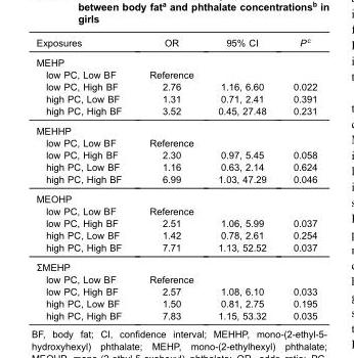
<table><thead><tr><td>Exposures</td><td>OR</td><td>95% CI</td><td>P<sup>c</sup></td></tr></thead><tbody><tr><td colspan="4">MEHP</td></tr><tr><td>low PC, Low BF</td><td>Reference</td><td></td><td></td></tr><tr><td>low PC, High BF</td><td>2.76</td><td>1.16, 6.60</td><td>0.022</td></tr><tr><td>high PC, Low BF</td><td>1.31</td><td>0.71, 2.41</td><td>0.391</td></tr><tr><td>high PC, High BF</td><td>3.52</td><td>0.45, 27.48</td><td>0.231</td></tr><tr><td colspan="4">MEHHP</td></tr><tr><td>low PC, Low BF</td><td>Reference</td><td></td><td></td></tr><tr><td>low PC, High BF</td><td>2.30</td><td>0.97, 5.45</td><td>0.058</td></tr><tr><td>high PC, Low BF</td><td>1.16</td><td>0.63, 2.14</td><td>0.624</td></tr><tr><td>high PC, High BF</td><td>6.99</td><td>1.03, 47.29</td><td>0.046</td></tr><tr><td colspan="4">MEOHP</td></tr><tr><td>low PC, Low BF</td><td>Reference</td><td></td><td></td></tr><tr><td>low PC, High BF</td><td>2.51</td><td>1.06, 5.99</td><td>0.037</td></tr><tr><td>high PC, Low BF</td><td>1.42</td><td>0.78, 2.61</td><td>0.254</td></tr><tr><td>high PC, High BF</td><td>7.71</td><td>1.13, 52.52</td><td>0.037</td></tr><tr><td colspan="4">ΣMEHP</td></tr><tr><td>low PC, Low BF</td><td>Reference</td><td></td><td></td></tr><tr><td>low PC, High BF</td><td>2.57</td><td>1.08, 6.10</td><td>0.033</td></tr><tr><td>high PC, Low BF</td><td>1.50</td><td>0.81, 2.75</td><td>0.195</td></tr><tr><td>high PC, High BF</td><td>7.83</td><td>1.15, 53.32</td><td>0.035</td></tr></tbody></table>